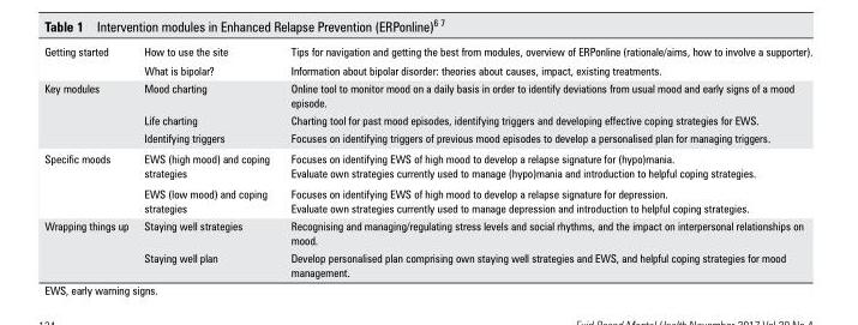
<table><tbody><tr><td rowspan="2">Getting started</td><td>How to use the site</td><td>Tips for navigation and getting the best from modules, overview of ERPonline (rationale/aims, how to involve a supporter).</td></tr><tr><td>What is bipolar?</td><td>Information about bipolar disorder: theories about causes, impact, existing treatments.</td></tr><tr><td rowspan="3">Key modules</td><td>Mood charting</td><td>Online tool to monitor mood on a daily basis in order to identify deviations from usual mood and early signs of a mood episode.</td></tr><tr><td>Life charting</td><td>Charting tool for past mood episodes, identifying triggers and developing effective coping strategies for EWS.</td></tr><tr><td>Identifying triggers</td><td>Focuses on identifying triggers of previous mood episodes to develop a personalised plan for managing triggers.</td></tr><tr><td rowspan="2">Specific moods</td><td>EWS (high mood) and coping strategies</td><td>Focuses on identifying EWS of high mood to develop a relapse signature for (hypo)mania. Evaluate own strategies currently used to manage (hypo)mania and introduction to helpful coping strategies.</td></tr><tr><td>EWS (low mood) and coping strategies</td><td>Focuses on identifying EWS of high mood to develop a relapse signature for depression. Evaluate own strategies currently used to manage depression and introduction to helpful coping strategies.</td></tr><tr><td rowspan="2">Wrapping things up</td><td>Staying well strategies</td><td>Recognising and managing/regulating stress levels and social rhythms, and the impact on interpersonal relationships on mood.</td></tr><tr><td>Staying well plan</td><td>Develop personalised plan comprising own staying well strategies and EWS, and helpful coping strategies for mood management.</td></tr></tbody></table>